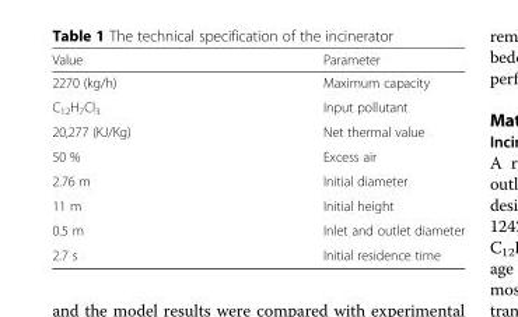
<table><thead><tr><td>Value</td><td>Parameter</td></tr></thead><tbody><tr><td>2270 (kg/h)</td><td>Maximum capacity</td></tr><tr><td>C<sub>12</sub>H<sub>7</sub>Cl<sub>3</sub></td><td>Input pollutant</td></tr><tr><td>20,277 (KJ/Kg)</td><td>Net thermal value</td></tr><tr><td>50 %</td><td>Excess air</td></tr><tr><td>2.76 m</td><td>Initial diameter</td></tr><tr><td>11 m</td><td>Initial height</td></tr><tr><td>0.5 m</td><td>Inlet and outlet diameter</td></tr><tr><td>2.7 s</td><td>Initial residence time</td></tr></tbody></table>